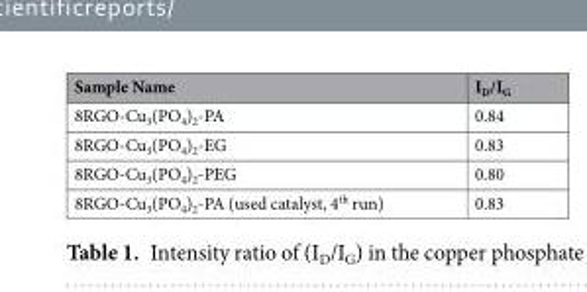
<table><thead><tr><td>Sample Name</td><td>I<sub>D</sub>/I<sub>G</sub></td></tr></thead><tbody><tr><td>8RGO-Cu<sub>3</sub>(PO<sub>4</sub>)<sub>2</sub>-PA</td><td>0.84</td></tr><tr><td>8RGO-Cu<sub>3</sub>(PO<sub>4</sub>)<sub>2</sub>-EG</td><td>0.83</td></tr><tr><td>8RGO-Cu<sub>3</sub>(PO<sub>4</sub>)<sub>2</sub>-PEG</td><td>0.80</td></tr><tr><td>8RGO-Cu<sub>3</sub>(PO<sub>4</sub>)<sub>2</sub>-PA (used catalyst, 4<sup>th</sup> run)</td><td>0.83</td></tr></tbody></table>